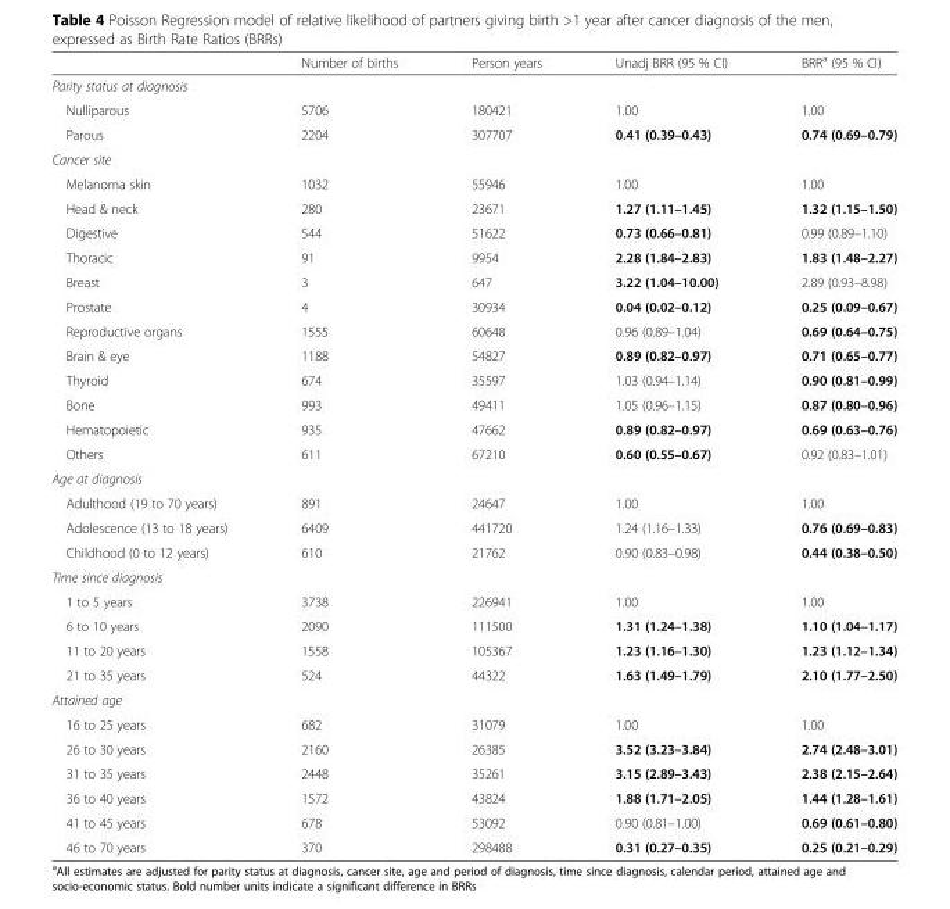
<table><thead><tr><td></td><td>Number of births</td><td>Person years</td><td>Unadj BRR (95 % CI)</td><td>BRR<sup>a</sup> (95 % CI)</td></tr></thead><tbody><tr><td colspan="5">Parity status at diagnosis</td></tr><tr><td>Nulliparous</td><td>5706</td><td>180421</td><td>1.00</td><td>1.00</td></tr><tr><td>Parous</td><td>2204</td><td>307707</td><td>0.41 (0.39–0.43)</td><td>0.74 (0.69–0.79)</td></tr><tr><td colspan="5">Cancer site</td></tr><tr><td>Melanoma skin</td><td>1032</td><td>55946</td><td>1.00</td><td>1.00</td></tr><tr><td>Head &amp; neck</td><td>280</td><td>23671</td><td>1.27 (1.11–1.45)</td><td>1.32 (1.15–1.50)</td></tr><tr><td>Digestive</td><td>544</td><td>51622</td><td>0.73 (0.66–0.81)</td><td>0.99 (0.89–1.10)</td></tr><tr><td>Thoracic</td><td>91</td><td>9954</td><td>2.28 (1.84–2.83)</td><td>1.83 (1.48–2.27)</td></tr><tr><td>Breast</td><td>3</td><td>647</td><td>3.22 (1.04–10.00)</td><td>2.89 (0.93–8.98)</td></tr><tr><td>Prostate</td><td>4</td><td>30934</td><td>0.04 (0.02–0.12)</td><td>0.25 (0.09–0.67)</td></tr><tr><td>Reproductive organs</td><td>1555</td><td>60648</td><td>0.96 (0.89–1.04)</td><td>0.69 (0.64–0.75)</td></tr><tr><td>Brain &amp; eye</td><td>1188</td><td>54827</td><td>0.89 (0.82–0.97)</td><td>0.71 (0.65–0.77)</td></tr><tr><td>Thyroid</td><td>674</td><td>35597</td><td>1.03 (0.94–1.14)</td><td>0.90 (0.81–0.99)</td></tr><tr><td>Bone</td><td>993</td><td>49411</td><td>1.05 (0.96–1.15)</td><td>0.87 (0.80–0.96)</td></tr><tr><td>Hematopoietic</td><td>935</td><td>47662</td><td>0.89 (0.82–0.97)</td><td>0.69 (0.63–0.76)</td></tr><tr><td>Others</td><td>611</td><td>67210</td><td>0.60 (0.55–0.67)</td><td>0.92 (0.83–1.01)</td></tr><tr><td colspan="5">Age at diagnosis</td></tr><tr><td>Adulthood (19 to 70 years)</td><td>891</td><td>24647</td><td>1.00</td><td>1.00</td></tr><tr><td>Adolescence (13 to 18 years)</td><td>6409</td><td>441720</td><td>1.24 (1.16–1.33)</td><td>0.76 (0.69–0.83)</td></tr><tr><td>Childhood (0 to 12 years)</td><td>610</td><td>21762</td><td>0.90 (0.83–0.98)</td><td>0.44 (0.38–0.50)</td></tr><tr><td colspan="5">Time since diagnosis</td></tr><tr><td>1 to 5 years</td><td>3738</td><td>226941</td><td>1.00</td><td>1.00</td></tr><tr><td>6 to 10 years</td><td>2090</td><td>111500</td><td>1.31 (1.24–1.38)</td><td>1.10 (1.04–1.17)</td></tr><tr><td>11 to 20 years</td><td>1558</td><td>105367</td><td>1.23 (1.16–1.30)</td><td>1.23 (1.12–1.34)</td></tr><tr><td>21 to 35 years</td><td>524</td><td>44322</td><td>1.63 (1.49–1.79)</td><td>2.10 (1.77–2.50)</td></tr><tr><td colspan="5">Attained age</td></tr><tr><td>16 to 25 years</td><td>682</td><td>31079</td><td>1.00</td><td>1.00</td></tr><tr><td>26 to 30 years</td><td>2160</td><td>26385</td><td>3.52 (3.23–3.84)</td><td>2.74 (2.48–3.01)</td></tr><tr><td>31 to 35 years</td><td>2448</td><td>35261</td><td>3.15 (2.89–3.43)</td><td>2.38 (2.15–2.64)</td></tr><tr><td>36 to 40 years</td><td>1572</td><td>43824</td><td>1.88 (1.71–2.05)</td><td>1.44 (1.28–1.61)</td></tr><tr><td>41 to 45 years</td><td>678</td><td>53092</td><td>0.90 (0.81–1.00)</td><td>0.69 (0.61–0.80)</td></tr><tr><td>46 to 70 years</td><td>370</td><td>298488</td><td>0.31 (0.27–0.35)</td><td>0.25 (0.21–0.29)</td></tr></tbody></table>